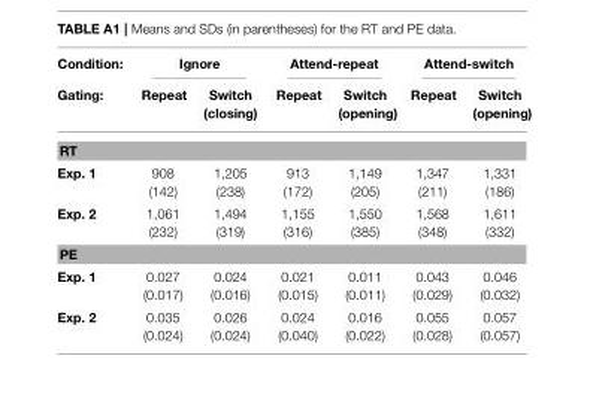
<table><thead><tr><td rowspan="2">Condition: Gating:</td><td colspan="2">Ignore</td><td colspan="2">Attend-repeat</td><td colspan="2">Attend-switch</td></tr><tr><td>Repeat</td><td>Switch (closing)</td><td>Repeat</td><td>Switch (opening)</td><td>Repeat</td><td>Switch (opening)</td></tr></thead><tbody><tr><td colspan="7">RT</td></tr><tr><td>Exp. 1</td><td>908 (142)</td><td>1,205 (238)</td><td>913 (172)</td><td>1,149 (205)</td><td>1,347 (211)</td><td>1,331 (186)</td></tr><tr><td>Exp. 2</td><td>1,061 (232)</td><td>1,494 (319)</td><td>1,155 (316)</td><td>1,550 (385)</td><td>1,568 (348)</td><td>1,611 (332)</td></tr><tr><td colspan="7">PE</td></tr><tr><td>Exp. 1</td><td>0.027 (0.017)</td><td>0.024 (0.016)</td><td>0.021 (0.015)</td><td>0.011 (0.011)</td><td>0.043 (0.029)</td><td>0.046 (0.032)</td></tr><tr><td>Exp. 2</td><td>0.035 (0.024)</td><td>0.026 (0.024)</td><td>0.024 (0.040)</td><td>0.016 (0.022)</td><td>0.055 (0.028)</td><td>0.057 (0.057)</td></tr></tbody></table>